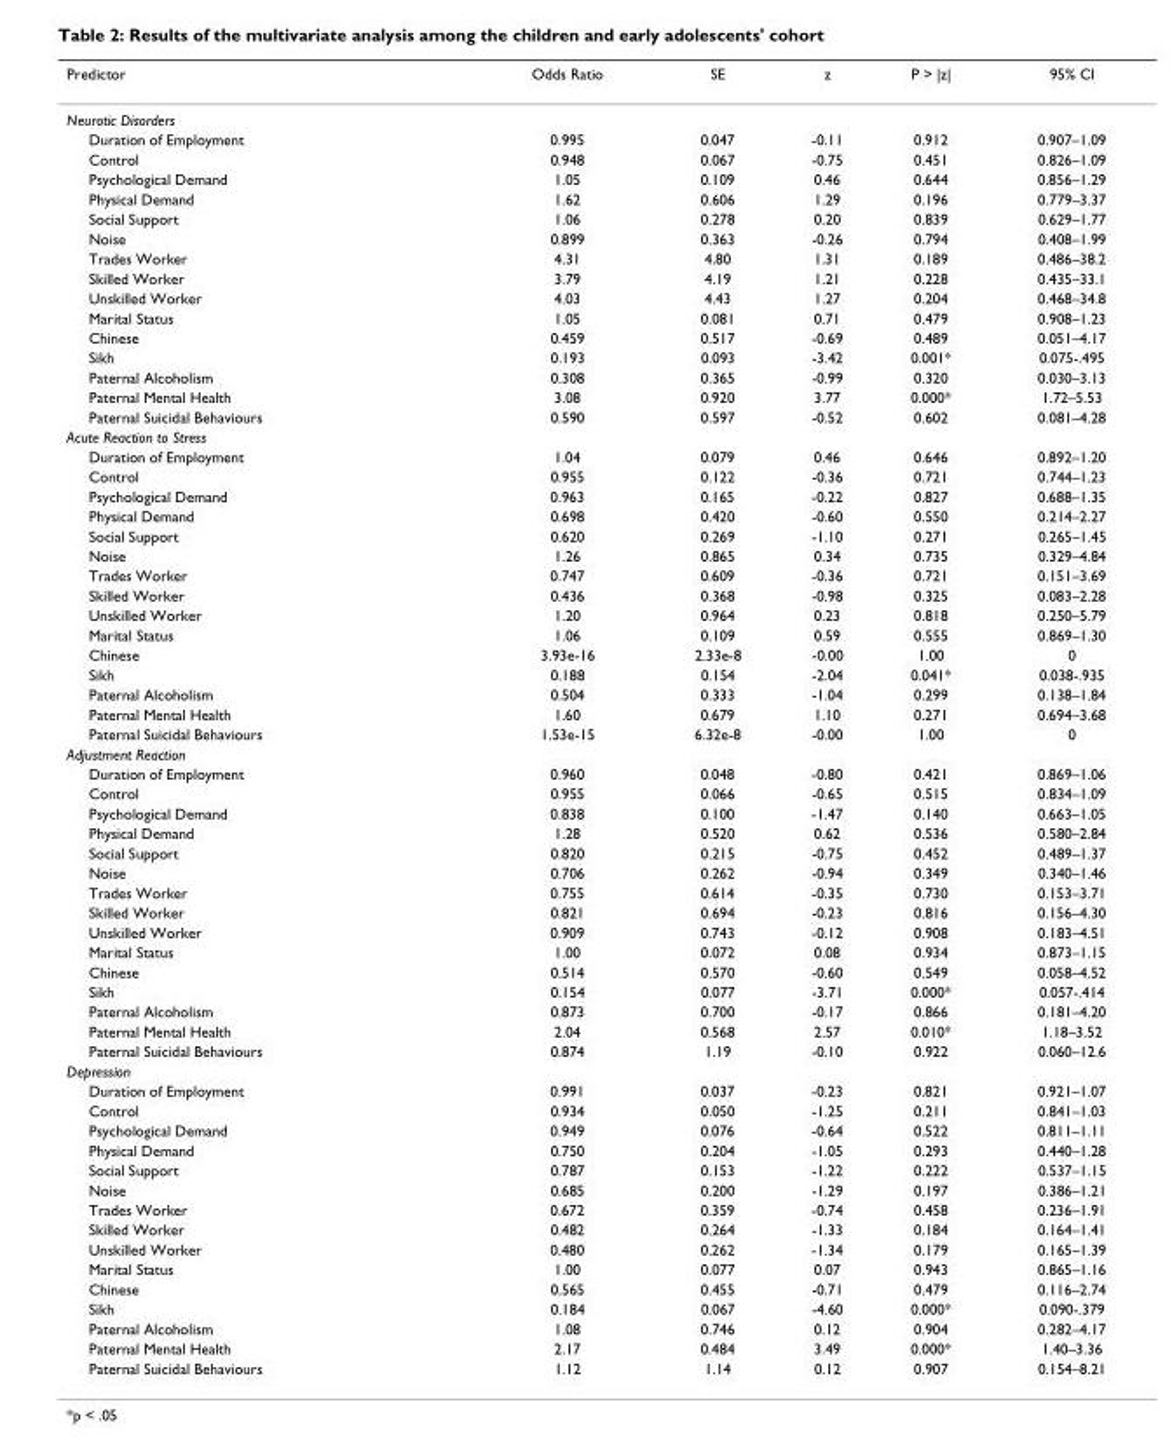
<table><thead><tr><td>Predictor</td><td>Odds Ratio</td><td>SE</td><td>z</td><td>P &gt; |z|</td><td>95% CI</td></tr></thead><tbody><tr><td colspan="6">Neurotic Disorders</td></tr><tr><td>Duration of Employment</td><td>0.995</td><td>0.047</td><td>-0.11</td><td>0.912</td><td>0.907–1.09</td></tr><tr><td>Control</td><td>0.948</td><td>0.067</td><td>-0.75</td><td>0.451</td><td>0.826–1.09</td></tr><tr><td>Psychological Demand</td><td>1.05</td><td>0.109</td><td>0.46</td><td>0.644</td><td>0.856–1.29</td></tr><tr><td>Physical Demand</td><td>1.62</td><td>0.606</td><td>1.29</td><td>0.196</td><td>0.779–3.37</td></tr><tr><td>Social Support</td><td>1.06</td><td>0.278</td><td>0.20</td><td>0.839</td><td>0.629–1.77</td></tr><tr><td>Noise</td><td>0.899</td><td>0.363</td><td>-0.26</td><td>0.794</td><td>0.408–1.99</td></tr><tr><td>Trades Worker</td><td>4.31</td><td>4.80</td><td>1.31</td><td>0.189</td><td>0.486–38.2</td></tr><tr><td>Skilled Worker</td><td>3.79</td><td>4.19</td><td>1.21</td><td>0.228</td><td>0.435–33.1</td></tr><tr><td>Unskilled Worker</td><td>4.03</td><td>4.43</td><td>1.27</td><td>0.204</td><td>0.468–34.8</td></tr><tr><td>Marital Status</td><td>1.05</td><td>0.081</td><td>0.71</td><td>0.479</td><td>0.908–1.23</td></tr><tr><td>Chinese</td><td>0.459</td><td>0.517</td><td>-0.69</td><td>0.489</td><td>0.051–4.17</td></tr><tr><td>Sikh</td><td>0.193</td><td>0.093</td><td>-3.42</td><td>0.001*</td><td>0.075-.495</td></tr><tr><td>Paternal Alcoholism</td><td>0.308</td><td>0.365</td><td>-0.99</td><td>0.320</td><td>0.030–3.13</td></tr><tr><td>Paternal Mental Health</td><td>3.08</td><td>0.920</td><td>3.77</td><td>0.000*</td><td>1.72–5.53</td></tr><tr><td>Paternal Suicidal Behaviours</td><td>0.590</td><td>0.597</td><td>-0.52</td><td>0.602</td><td>0.081–4.28</td></tr><tr><td colspan="6">Acute Reaction to Stress</td></tr><tr><td>Duration of Employment</td><td>1.04</td><td>0.079</td><td>0.46</td><td>0.646</td><td>0.892–1.20</td></tr><tr><td>Control</td><td>0.955</td><td>0.122</td><td>-0.36</td><td>0.721</td><td>0.744–1.23</td></tr><tr><td>Psychological Demand</td><td>0.963</td><td>0.165</td><td>-0.22</td><td>0.827</td><td>0.688–1.35</td></tr><tr><td>Physical Demand</td><td>0.698</td><td>0.420</td><td>-0.60</td><td>0.550</td><td>0.214–2.27</td></tr><tr><td>Social Support</td><td>0.620</td><td>0.269</td><td>-1.10</td><td>0.271</td><td>0.265–1.45</td></tr><tr><td>Noise</td><td>1.26</td><td>0.865</td><td>0.34</td><td>0.735</td><td>0.329–4.84</td></tr><tr><td>Trades Worker</td><td>0.747</td><td>0.609</td><td>-0.36</td><td>0.721</td><td>0.151–3.69</td></tr><tr><td>Skilled Worker</td><td>0.436</td><td>0.368</td><td>-0.98</td><td>0.325</td><td>0.083–2.28</td></tr><tr><td>Unskilled Worker</td><td>1.20</td><td>0.964</td><td>0.23</td><td>0.818</td><td>0.250–5.79</td></tr><tr><td>Marital Status</td><td>1.06</td><td>0.109</td><td>0.59</td><td>0.555</td><td>0.869–1.30</td></tr><tr><td>Chinese</td><td>3.93e-16</td><td>2.33e-8</td><td>-0.00</td><td>1.00</td><td>0</td></tr><tr><td>Sikh</td><td>0.188</td><td>0.154</td><td>-2.04</td><td>0.041*</td><td>0.038-.935</td></tr><tr><td>Paternal Alcoholism</td><td>0.504</td><td>0.333</td><td>-1.04</td><td>0.299</td><td>0.138–1.84</td></tr><tr><td>Paternal Mental Health</td><td>1.60</td><td>0.679</td><td>1.10</td><td>0.271</td><td>0.694–3.68</td></tr><tr><td>Paternal Suicidal Behaviours</td><td>1.53e-15</td><td>6.32e-8</td><td>-0.00</td><td>1.00</td><td>0</td></tr><tr><td colspan="6">Adjustment Reaction</td></tr><tr><td>Duration of Employment</td><td>0.960</td><td>0.048</td><td>-0.80</td><td>0.421</td><td>0.869–1.06</td></tr><tr><td>Control</td><td>0.955</td><td>0.066</td><td>-0.65</td><td>0.515</td><td>0.834–1.09</td></tr><tr><td>Psychological Demand</td><td>0.838</td><td>0.100</td><td>-1.47</td><td>0.140</td><td>0.663–1.05</td></tr><tr><td>Physical Demand</td><td>1.28</td><td>0.520</td><td>0.62</td><td>0.536</td><td>0.580–2.84</td></tr><tr><td>Social Support</td><td>0.820</td><td>0.215</td><td>-0.75</td><td>0.452</td><td>0.489–1.37</td></tr><tr><td>Noise</td><td>0.706</td><td>0.262</td><td>-0.94</td><td>0.349</td><td>0.340–1.46</td></tr><tr><td>Trades Worker</td><td>0.755</td><td>0.614</td><td>-0.35</td><td>0.730</td><td>0.153–3.71</td></tr><tr><td>Skilled Worker</td><td>0.821</td><td>0.694</td><td>-0.23</td><td>0.816</td><td>0.156–4.30</td></tr><tr><td>Unskilled Worker</td><td>0.909</td><td>0.743</td><td>-0.12</td><td>0.908</td><td>0.183–4.51</td></tr><tr><td>Marital Status</td><td>1.00</td><td>0.072</td><td>0.08</td><td>0.934</td><td>0.873–1.15</td></tr><tr><td>Chinese</td><td>0.514</td><td>0.570</td><td>-0.60</td><td>0.549</td><td>0.058–4.52</td></tr><tr><td>Sikh</td><td>0.154</td><td>0.077</td><td>-3.71</td><td>0.000*</td><td>0.057-.414</td></tr><tr><td>Paternal Alcoholism</td><td>0.873</td><td>0.700</td><td>-0.17</td><td>0.866</td><td>0.181–4.20</td></tr><tr><td>Paternal Mental Health</td><td>2.04</td><td>0.568</td><td>2.57</td><td>0.010*</td><td>1.18–3.52</td></tr><tr><td>Paternal Suicidal Behaviours</td><td>0.874</td><td>1.19</td><td>-0.10</td><td>0.922</td><td>0.060–12.6</td></tr><tr><td colspan="6">Depression</td></tr><tr><td>Duration of Employment</td><td>0.991</td><td>0.037</td><td>-0.23</td><td>0.821</td><td>0.921–1.07</td></tr><tr><td>Control</td><td>0.934</td><td>0.050</td><td>-1.25</td><td>0.211</td><td>0.841–1.03</td></tr><tr><td>Psychological Demand</td><td>0.949</td><td>0.076</td><td>-0.64</td><td>0.522</td><td>0.811–1.11</td></tr><tr><td>Physical Demand</td><td>0.750</td><td>0.204</td><td>-1.05</td><td>0.293</td><td>0.440–1.28</td></tr><tr><td>Social Support</td><td>0.787</td><td>0.153</td><td>-1.22</td><td>0.222</td><td>0.537–1.15</td></tr><tr><td>Noise</td><td>0.685</td><td>0.200</td><td>-1.29</td><td>0.197</td><td>0.386–1.21</td></tr><tr><td>Trades Worker</td><td>0.672</td><td>0.359</td><td>-0.74</td><td>0.458</td><td>0.236–1.91</td></tr><tr><td>Skilled Worker</td><td>0.482</td><td>0.264</td><td>-1.33</td><td>0.184</td><td>0.164–1.41</td></tr><tr><td>Unskilled Worker</td><td>0.480</td><td>0.262</td><td>-1.34</td><td>0.179</td><td>0.165–1.39</td></tr><tr><td>Marital Status</td><td>1.00</td><td>0.077</td><td>0.07</td><td>0.943</td><td>0.865–1.16</td></tr><tr><td>Chinese</td><td>0.565</td><td>0.455</td><td>-0.71</td><td>0.479</td><td>0.116–2.74</td></tr><tr><td>Sikh</td><td>0.184</td><td>0.067</td><td>-4.60</td><td>0.000*</td><td>0.090-.379</td></tr><tr><td>Paternal Alcoholism</td><td>1.08</td><td>0.746</td><td>0.12</td><td>0.904</td><td>0.282–4.17</td></tr><tr><td>Paternal Mental Health</td><td>2.17</td><td>0.484</td><td>3.49</td><td>0.000*</td><td>1.40–3.36</td></tr><tr><td>Paternal Suicidal Behaviours</td><td>1.12</td><td>1.14</td><td>0.12</td><td>0.907</td><td>0.154–8.21</td></tr></tbody></table>